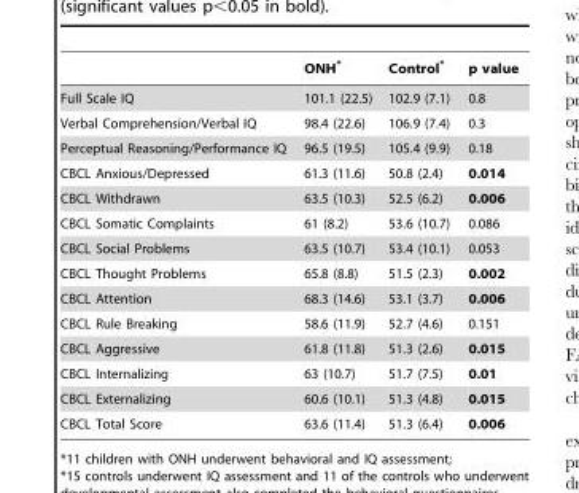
<table><thead><tr><td></td><td>ONH*</td><td>Control*</td><td>p value</td></tr></thead><tbody><tr><td>Full Scale IQ</td><td>101.1 (22.5)</td><td>102.9 (7.1)</td><td>0.8</td></tr><tr><td>Verbal Comprehension/Verbal IQ</td><td>98.4 (22.6)</td><td>106.9 (7.4)</td><td>0.3</td></tr><tr><td>Perceptual Reasoning/Performance IQ</td><td>96.5 (19.5)</td><td>105.4 (9.9)</td><td>0.18</td></tr><tr><td>CBCL Anxious/Depressed</td><td>61.3 (11.6)</td><td>50.8 (2.4)</td><td>0.014</td></tr><tr><td>CBCL Withdrawn</td><td>63.5 (10.3)</td><td>52.5 (6.2)</td><td>0.006</td></tr><tr><td>CBCL Somatic Complaints</td><td>61 (8.2)</td><td>53.6 (10.7)</td><td>0.086</td></tr><tr><td>CBCL Social Problems</td><td>63.5 (10.7)</td><td>53.4 (10.1)</td><td>0.053</td></tr><tr><td>CBCL Thought Problems</td><td>65.8 (8.8)</td><td>51.5 (2.3)</td><td>0.002</td></tr><tr><td>CBCL Attention</td><td>68.3 (14.6)</td><td>53.1 (3.7)</td><td>0.006</td></tr><tr><td>CBCL Rule Breaking</td><td>58.6 (11.9)</td><td>52.7 (4.6)</td><td>0.151</td></tr><tr><td>CBCL Aggressive</td><td>61.8 (11.8)</td><td>51.3 (2.6)</td><td>0.015</td></tr><tr><td>CBCL Internalizing</td><td>63 (10.7)</td><td>51.7 (7.5)</td><td>0.01</td></tr><tr><td>CBCL Externalizing</td><td>60.6 (10.1)</td><td>51.3 (4.8)</td><td>0.015</td></tr><tr><td>CBCL Total Score</td><td>63.6 (11.4)</td><td>51.3 (6.4)</td><td>0.006</td></tr></tbody></table>